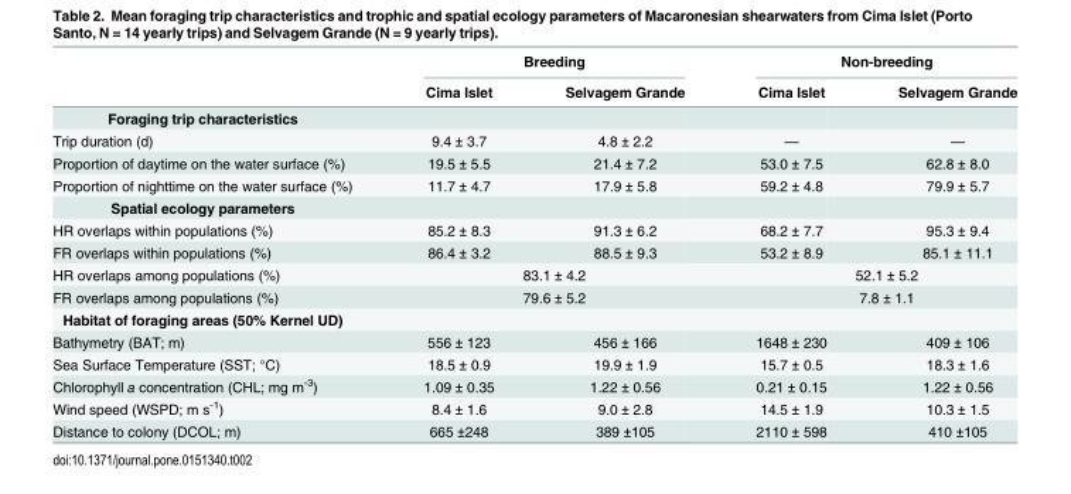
<table><thead><tr><td rowspan="2"></td><td colspan="2">Breeding</td><td colspan="2">Non-breeding</td></tr><tr><td>Cima Islet</td><td>Selvagem Grande</td><td>Cima Islet</td><td>Selvagem Grande</td></tr></thead><tbody><tr><td colspan="5">Foraging trip characteristics</td></tr><tr><td>Trip duration (d)</td><td>9.4 ± 3.7</td><td>4.8 ± 2.2</td><td>—</td><td>—</td></tr><tr><td>Proportion of daytime on the water surface (%)</td><td>19.5 ± 5.5</td><td>21.4 ± 7.2</td><td>53.0 ± 7.5</td><td>62.8 ± 8.0</td></tr><tr><td>Proportion of nighttime on the water surface (%)</td><td>11.7 ± 4.7</td><td>17.9 ± 5.8</td><td>59.2 ± 4.8</td><td>79.9 ± 5.7</td></tr><tr><td colspan="5">Spatial ecology parameters</td></tr><tr><td>HR overlaps within populations (%)</td><td>85.2 ± 8.3</td><td>91.3 ± 6.2</td><td>68.2 ± 7.7</td><td>95.3 ± 9.4</td></tr><tr><td>FR overlaps within populations (%)</td><td>86.4 ± 3.2</td><td>88.5 ± 9.3</td><td>53.2 ± 8.9</td><td>85.1 ± 11.1</td></tr><tr><td>HR overlaps among populations (%)</td><td colspan="2">83.1 ± 4.2</td><td colspan="2">52.1 ± 5.2</td></tr><tr><td>FR overlaps among populations (%)</td><td colspan="2">79.6 ± 5.2</td><td colspan="2">7.8 ± 1.1</td></tr><tr><td colspan="5">Habitat of foraging areas (50% Kernel UD)</td></tr><tr><td>Bathymetry (BAT; m)</td><td>556 ± 123</td><td>456 ± 166</td><td>1648 ± 230</td><td>409 ± 106</td></tr><tr><td>Sea Surface Temperature (SST; °C)</td><td>18.5 ± 0.9</td><td>19.9 ± 1.9</td><td>15.7 ± 0.5</td><td>18.3 ± 1.6</td></tr><tr><td>Chlorophyll a concentration (CHL; mg m<sup>-3</sup>)</td><td>1.09 ± 0.35</td><td>1.22 ± 0.56</td><td>0.21 ± 0.15</td><td>1.22 ± 0.56</td></tr><tr><td>Wind speed (WSPD; m s<sup>-1</sup>)</td><td>8.4 ± 1.6</td><td>9.0 ± 2.8</td><td>14.5 ± 1.9</td><td>10.3 ± 1.5</td></tr><tr><td>Distance to colony (DCOL; m)</td><td>665 ±248</td><td>389 ±105</td><td>2110 ± 598</td><td>410 ±105</td></tr></tbody></table>